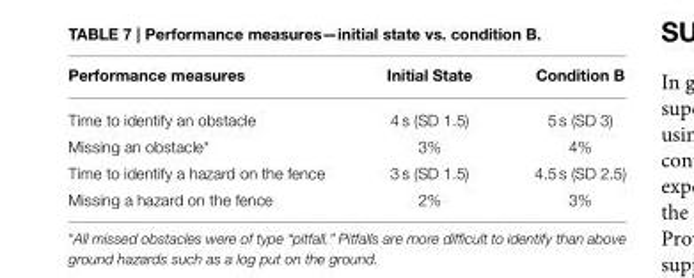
<table><thead><tr><td>Performance measures</td><td>Initial State</td><td>Condition B</td></tr></thead><tbody><tr><td>Time to identify an obstacle</td><td>4 s (SD 1.5)</td><td>5 s (SD 3)</td></tr><tr><td>Missing an obstacle*</td><td>3%</td><td>4%</td></tr><tr><td>Time to identify a hazard on the fence</td><td>3 s (SD 1.5)</td><td>4.5 s (SD 2.5)</td></tr><tr><td>Missing a hazard on the fence</td><td>2%</td><td>3%</td></tr></tbody></table>